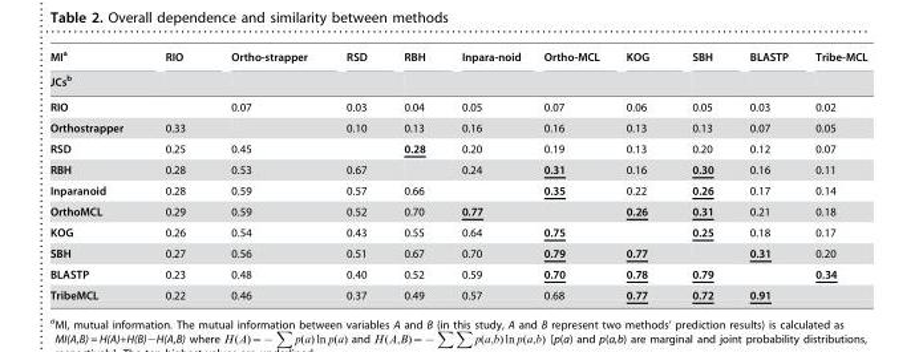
<table><thead><tr><td rowspan="2">MI<sup>a</sup> JCs<sup>b</sup></td><td rowspan="2">RIO</td><td rowspan="2">Ortho-strapper</td><td rowspan="2">RSD</td><td rowspan="2">RBH</td><td rowspan="2">Inpara-noid</td><td rowspan="2">Ortho-MCL</td><td rowspan="2">KOG</td><td rowspan="2">SBH</td><td rowspan="2">BLASTP</td><td rowspan="2">Tribe-MCL</td></tr><tr></tr></thead><tbody><tr><td>RIO</td><td></td><td>0.07</td><td>0.03</td><td>0.04</td><td>0.05</td><td>0.07</td><td>0.06</td><td>0.05</td><td>0.03</td><td>0.02</td></tr><tr><td>Orthostrapper</td><td>0.33</td><td></td><td>0.10</td><td>0.13</td><td>0.16</td><td>0.16</td><td>0.13</td><td>0.13</td><td>0.07</td><td>0.05</td></tr><tr><td>RSD</td><td>0.25</td><td>0.45</td><td></td><td>0.28</td><td>0.20</td><td>0.19</td><td>0.13</td><td>0.20</td><td>0.12</td><td>0.07</td></tr><tr><td>RBH</td><td>0.28</td><td>0.53</td><td>0.67</td><td></td><td>0.24</td><td>0.31</td><td>0.16</td><td>0.30</td><td>0.16</td><td>0.11</td></tr><tr><td>Inparanoid</td><td>0.28</td><td>0.59</td><td>0.57</td><td>0.66</td><td></td><td>0.35</td><td>0.22</td><td>0.26</td><td>0.17</td><td>0.14</td></tr><tr><td>OrthoMCL</td><td>0.29</td><td>0.59</td><td>0.52</td><td>0.70</td><td>0.77</td><td></td><td>0.26</td><td>0.31</td><td>0.21</td><td>0.18</td></tr><tr><td>KOG</td><td>0.26</td><td>0.54</td><td>0.43</td><td>0.55</td><td>0.64</td><td>0.75</td><td></td><td>0.25</td><td>0.18</td><td>0.17</td></tr><tr><td>SBH</td><td>0.27</td><td>0.56</td><td>0.51</td><td>0.67</td><td>0.70</td><td>0.79</td><td>0.77</td><td></td><td>0.31</td><td>0.20</td></tr><tr><td>BLASTP</td><td>0.23</td><td>0.48</td><td>0.40</td><td>0.52</td><td>0.59</td><td>0.70</td><td>0.78</td><td>0.79</td><td></td><td>0.34</td></tr><tr><td>TribeMCL</td><td>0.22</td><td>0.46</td><td>0.37</td><td>0.49</td><td>0.57</td><td>0.68</td><td>0.77</td><td>0.72</td><td>0.91</td><td></td></tr></tbody></table>